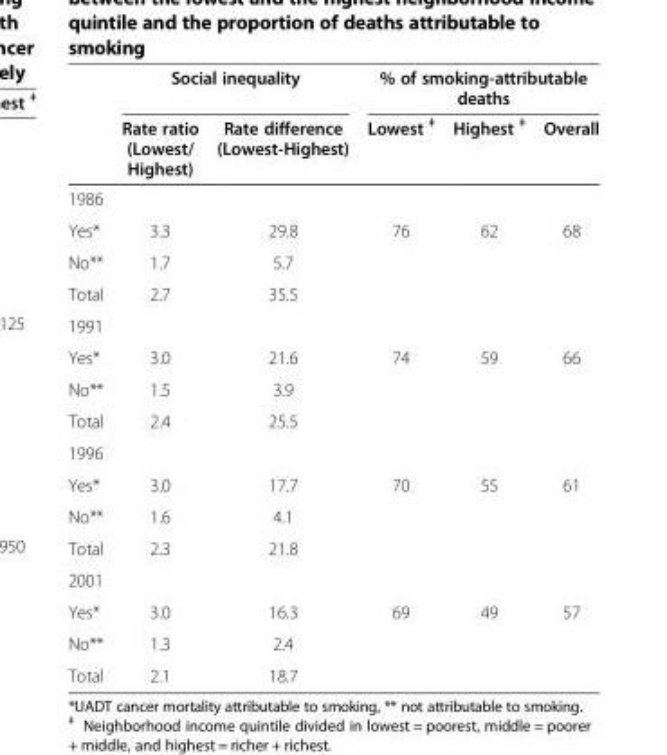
<table><thead><tr><td rowspan="2"></td><td colspan="2">Social inequality</td><td colspan="3">% of smoking-attributable deaths</td></tr><tr><td>Rate ratio (Lowest/ Highest)</td><td>Rate difference (Lowest-Highest)</td><td>Lowest <sup>ǂ</sup></td><td>Highest <sup>ǂ</sup></td><td>Overall</td></tr></thead><tbody><tr><td colspan="6">1986</td></tr><tr><td>Yes*</td><td>3.3</td><td>29.8</td><td>76</td><td>62</td><td>68</td></tr><tr><td>No**</td><td>1.7</td><td>5.7</td><td></td><td></td><td></td></tr><tr><td>Total</td><td>2.7</td><td>35.5</td><td></td><td></td><td></td></tr><tr><td colspan="6">1991</td></tr><tr><td>Yes*</td><td>3.0</td><td>21.6</td><td>74</td><td>59</td><td>66</td></tr><tr><td>No**</td><td>1.5</td><td>3.9</td><td></td><td></td><td></td></tr><tr><td>Total</td><td>2.4</td><td>25.5</td><td></td><td></td><td></td></tr><tr><td colspan="6">1996</td></tr><tr><td>Yes*</td><td>3.0</td><td>17.7</td><td>70</td><td>55</td><td>61</td></tr><tr><td>No**</td><td>1.6</td><td>4.1</td><td></td><td></td><td></td></tr><tr><td>Total</td><td>2.3</td><td>21.8</td><td></td><td></td><td></td></tr><tr><td colspan="6">2001</td></tr><tr><td>Yes*</td><td>3.0</td><td>16.3</td><td>69</td><td>49</td><td>57</td></tr><tr><td>No**</td><td>1.3</td><td>2.4</td><td></td><td></td><td></td></tr><tr><td>Total</td><td>2.1</td><td>18.7</td><td></td><td></td><td></td></tr></tbody></table>